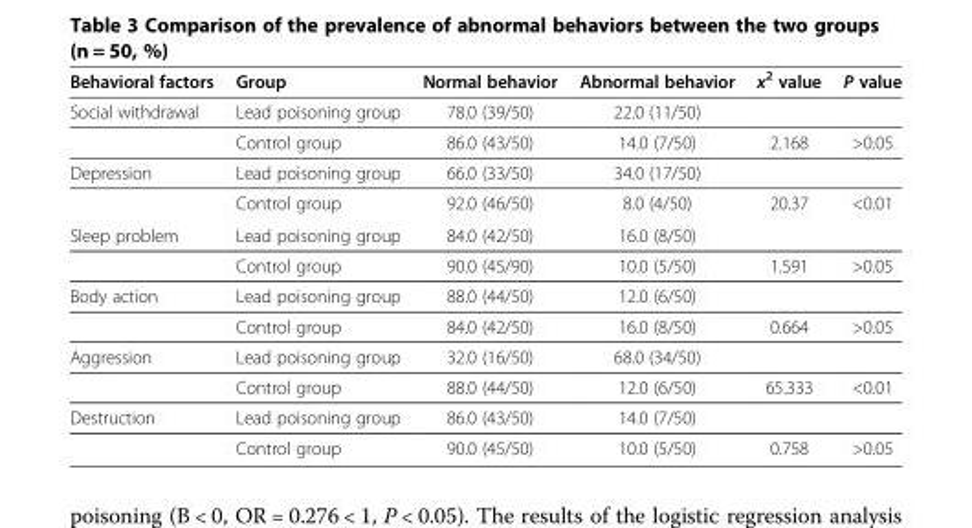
<table><thead><tr><td>Behavioral factors</td><td>Group</td><td>Normal behavior</td><td>Abnormal behavior</td><td>x<sup>2</sup> value</td><td>P value</td></tr></thead><tbody><tr><td rowspan="2">Social withdrawal</td><td>Lead poisoning group</td><td>78.0 (39/50)</td><td>22.0 (11/50)</td><td></td><td></td></tr><tr><td>Control group</td><td>86.0 (43/50)</td><td>14.0 (7/50)</td><td>2.168</td><td>&gt;0.05</td></tr><tr><td rowspan="2">Depression</td><td>Lead poisoning group</td><td>66.0 (33/50)</td><td>34.0 (17/50)</td><td></td><td></td></tr><tr><td>Control group</td><td>92.0 (46/50)</td><td>8.0 (4/50)</td><td>20.37</td><td>&lt;0.01</td></tr><tr><td rowspan="2">Sleep problem</td><td>Lead poisoning group</td><td>84.0 (42/50)</td><td>16.0 (8/50)</td><td></td><td></td></tr><tr><td>Control group</td><td>90.0 (45/90)</td><td>10.0 (5/50)</td><td>1.591</td><td>&gt;0.05</td></tr><tr><td rowspan="2">Body action</td><td>Lead poisoning group</td><td>88.0 (44/50)</td><td>12.0 (6/50)</td><td></td><td></td></tr><tr><td>Control group</td><td>84.0 (42/50)</td><td>16.0 (8/50)</td><td>0.664</td><td>&gt;0.05</td></tr><tr><td rowspan="2">Aggression</td><td>Lead poisoning group</td><td>32.0 (16/50)</td><td>68.0 (34/50)</td><td></td><td></td></tr><tr><td>Control group</td><td>88.0 (44/50)</td><td>12.0 (6/50)</td><td>65.333</td><td>&lt;0.01</td></tr><tr><td rowspan="2">Destruction</td><td>Lead poisoning group</td><td>86.0 (43/50)</td><td>14.0 (7/50)</td><td></td><td></td></tr><tr><td>Control group</td><td>90.0 (45/50)</td><td>10.0 (5/50)</td><td>0.758</td><td>&gt;0.05</td></tr></tbody></table>